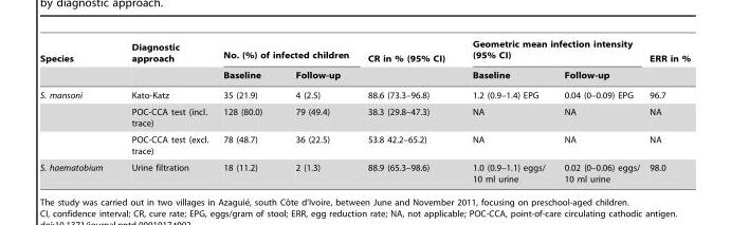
<table><thead><tr><td rowspan="2">Species</td><td rowspan="2">Diagnostic approach</td><td colspan="2">No. (%) of infected children</td><td rowspan="2">CR in % (95% CI)</td><td colspan="2">Geometric mean infection intensity (95% CI)</td><td rowspan="2">ERR in %</td></tr><tr><td>Baseline</td><td>Follow-up</td><td>Baseline</td><td>Follow-up</td></tr></thead><tbody><tr><td rowspan="3">S. mansoni</td><td>Kato-Katz</td><td>35 (21.9)</td><td>4 (2.5)</td><td>88.6 (73.3–96.8)</td><td>1.2 (0.9–1.4) EPG</td><td>0.04 (0–0.09) EPG</td><td>96.7</td></tr><tr><td>POC-CCA test (incl. trace)</td><td>128 (80.0)</td><td>79 (49.4)</td><td>38.3 (29.8–47.3)</td><td>NA</td><td>NA</td><td>NA</td></tr><tr><td>POC-CCA test (excl. trace)</td><td>78 (48.7)</td><td>36 (22.5)</td><td>53.8 42.2–65.2)</td><td>NA</td><td>NA</td><td>NA</td></tr><tr><td>S. haematobium</td><td>Urine filtration</td><td>18 (11.2)</td><td>2 (1.3)</td><td>88.9 (65.3–98.6)</td><td>1.0 (0.9–1.1) eggs/ 10 ml urine</td><td>0.02 (0–0.06) eggs/ 10 ml urine</td><td>98.0</td></tr></tbody></table>